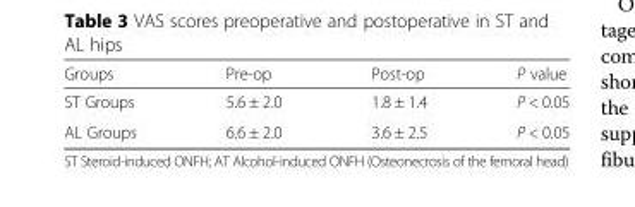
<table><thead><tr><td>Groups</td><td>Pre-op</td><td>Post-op</td><td>P value</td></tr></thead><tbody><tr><td>ST Groups</td><td>5.6 ± 2.0</td><td>1.8 ± 1.4</td><td>P &lt; 0.05</td></tr><tr><td>AL Groups</td><td>6.6 ± 2.0</td><td>3.6 ± 2.5</td><td>P &lt; 0.05</td></tr></tbody></table>